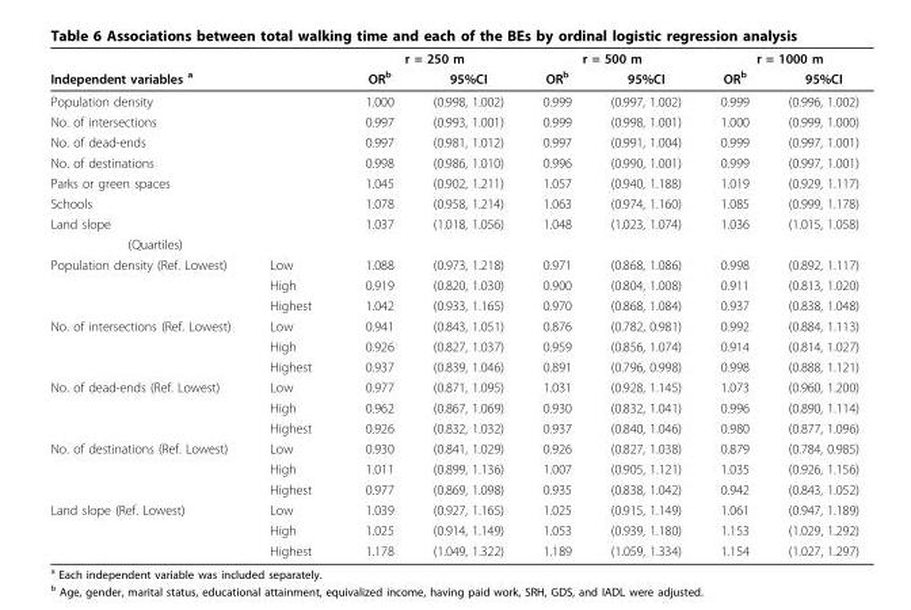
<table><thead><tr><td rowspan="2">Independent variables <sup>a</sup></td><td rowspan="2"></td><td colspan="2">r = 250 m</td><td colspan="2">r = 500 m</td><td colspan="2">r = 1000 m</td></tr><tr><td>OR<sup>b</sup></td><td>95%CI</td><td>OR<sup>b</sup></td><td>95%CI</td><td>OR<sup>b</sup></td><td>95%CI</td></tr></thead><tbody><tr><td>Population density</td><td></td><td>1.000</td><td>(0.998, 1.002)</td><td>0.999</td><td>(0.997, 1.002)</td><td>0.999</td><td>(0.996, 1.002)</td></tr><tr><td>No. of intersections</td><td></td><td>0.997</td><td>(0.993, 1.001)</td><td>0.999</td><td>(0.998, 1.001)</td><td>1.000</td><td>(0.999, 1.000)</td></tr><tr><td>No. of dead-ends</td><td></td><td>0.997</td><td>(0.981, 1.012)</td><td>0.997</td><td>(0.991, 1.004)</td><td>0.999</td><td>(0.997, 1.001)</td></tr><tr><td>No. of destinations</td><td></td><td>0.998</td><td>(0.986, 1.010)</td><td>0.996</td><td>(0.990, 1.001)</td><td>0.999</td><td>(0.997, 1.001)</td></tr><tr><td>Parks or green spaces</td><td></td><td>1.045</td><td>(0.902, 1.211)</td><td>1.057</td><td>(0.940, 1.188)</td><td>1.019</td><td>(0.929, 1.117)</td></tr><tr><td>Schools</td><td></td><td>1.078</td><td>(0.958, 1.214)</td><td>1.063</td><td>(0.974, 1.160)</td><td>1.085</td><td>(0.999, 1.178)</td></tr><tr><td>Land slope</td><td></td><td>1.037</td><td>(1.018, 1.056)</td><td>1.048</td><td>(1.023, 1.074)</td><td>1.036</td><td>(1.015, 1.058)</td></tr><tr><td colspan="8">(Quartiles)</td></tr><tr><td rowspan="3">Population density (Ref. Lowest)</td><td>Low</td><td>1.088</td><td>(0.973, 1.218)</td><td>0.971</td><td>(0.868, 1.086)</td><td>0.998</td><td>(0.892, 1.117)</td></tr><tr><td>High</td><td>0.919</td><td>(0.820, 1.030)</td><td>0.900</td><td>(0.804, 1.008)</td><td>0.911</td><td>(0.813, 1.020)</td></tr><tr><td>Highest</td><td>1.042</td><td>(0.933, 1.165)</td><td>0.970</td><td>(0.868, 1.084)</td><td>0.937</td><td>(0.838, 1.048)</td></tr><tr><td rowspan="3">No. of intersections (Ref. Lowest)</td><td>Low</td><td>0.941</td><td>(0.843, 1.051)</td><td>0.876</td><td>(0.782, 0.981)</td><td>0.992</td><td>(0.884, 1.113)</td></tr><tr><td>High</td><td>0.926</td><td>(0.827, 1.037)</td><td>0.959</td><td>(0.856, 1.074)</td><td>0.914</td><td>(0.814, 1.027)</td></tr><tr><td>Highest</td><td>0.937</td><td>(0.839, 1.046)</td><td>0.891</td><td>(0.796, 0.998)</td><td>0.998</td><td>(0.888, 1.121)</td></tr><tr><td rowspan="3">No. of dead-ends (Ref. Lowest)</td><td>Low</td><td>0.977</td><td>(0.871, 1.095)</td><td>1.031</td><td>(0.928, 1.145)</td><td>1.073</td><td>(0.960, 1.200)</td></tr><tr><td>High</td><td>0.962</td><td>(0.867, 1.069)</td><td>0.930</td><td>(0.832, 1.041)</td><td>0.996</td><td>(0.890, 1.114)</td></tr><tr><td>Highest</td><td>0.926</td><td>(0.832, 1.032)</td><td>0.937</td><td>(0.840, 1.046)</td><td>0.980</td><td>(0.877, 1.096)</td></tr><tr><td rowspan="3">No. of destinations (Ref. Lowest)</td><td>Low</td><td>0.930</td><td>(0.841, 1.029)</td><td>0.926</td><td>(0.827, 1.038)</td><td>0.879</td><td>(0.784, 0.985)</td></tr><tr><td>High</td><td>1.011</td><td>(0.899, 1.136)</td><td>1.007</td><td>(0.905, 1.121)</td><td>1.035</td><td>(0.926, 1.156)</td></tr><tr><td>Highest</td><td>0.977</td><td>(0.869, 1.098)</td><td>0.935</td><td>(0.838, 1.042)</td><td>0.942</td><td>(0.843, 1.052)</td></tr><tr><td rowspan="3">Land slope (Ref. Lowest)</td><td>Low</td><td>1.039</td><td>(0.927, 1.165)</td><td>1.025</td><td>(0.915, 1.149)</td><td>1.061</td><td>(0.947, 1.189)</td></tr><tr><td>High</td><td>1.025</td><td>(0.914, 1.149)</td><td>1.053</td><td>(0.939, 1.180)</td><td>1.153</td><td>(1.029, 1.292)</td></tr><tr><td>Highest</td><td>1.178</td><td>(1.049, 1.322)</td><td>1.189</td><td>(1.059, 1.334)</td><td>1.154</td><td>(1.027, 1.297)</td></tr></tbody></table>